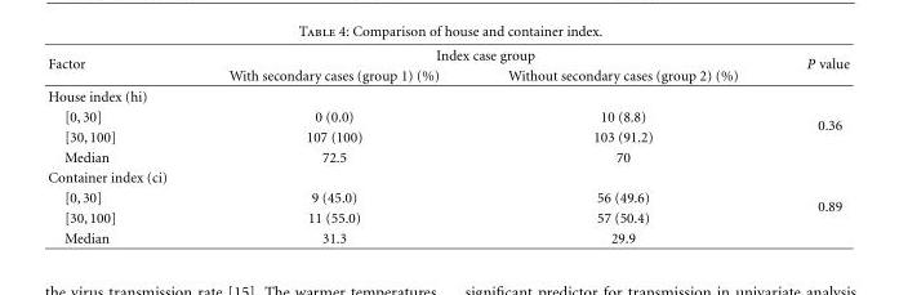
<table><thead><tr><td rowspan="2">Factor</td><td colspan="2">Index case group</td><td rowspan="2">P value</td></tr><tr><td>With secondary cases (group 1) (%)</td><td>Without secondary cases (group 2) (%)</td></tr></thead><tbody><tr><td colspan="3">House index (hi)</td><td rowspan="4">0.36</td></tr><tr><td>[0,30]</td><td>0 (0.0)</td><td>10 (8.8)</td></tr><tr><td>[30,100]</td><td>107 (100)</td><td>103 (91.2)</td></tr><tr><td>Median</td><td>72.5</td><td>70</td></tr><tr><td colspan="3">Container index (ci)</td><td rowspan="4">0.89</td></tr><tr><td>[0,30]</td><td>9 (45.0)</td><td>56 (49.6)</td></tr><tr><td>[30,100]</td><td>11 (55.0)</td><td>57 (50.4)</td></tr><tr><td>Median</td><td>31.3</td><td>29.9</td></tr></tbody></table>